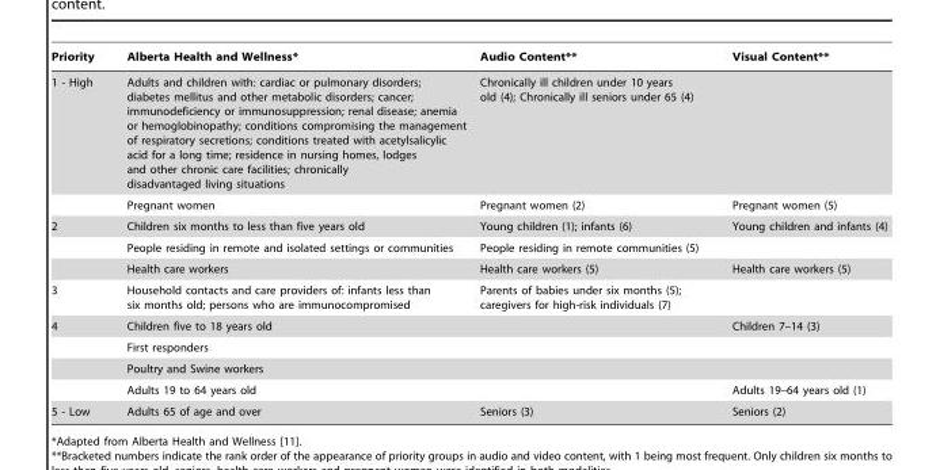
<table><thead><tr><td>Priority</td><td>Alberta Health and Wellness*</td><td>Audio Content**</td><td>Visual Content**</td></tr></thead><tbody><tr><td rowspan="2">1 - High</td><td>Adults and children with: cardiac or pulmonary disorders; diabetes mellitus and other metabolic disorders; cancer; immunodeficiency or immunosuppression; renal disease; anemia or hemoglobinopathy; conditions compromising the management of respiratory secretions; conditions treated with acetylsalicylic acid for a long time; residence in nursing homes, lodges and other chronic care facilities; chronically disadvantaged living situations</td><td>Chronically ill children under 10 years old (4); Chronically ill seniors under 65 (4)</td><td></td></tr><tr><td>Pregnant women</td><td>Pregnant women (2)</td><td>Pregnant women (5)</td></tr><tr><td rowspan="3">2</td><td>Children six months to less than five years old</td><td>Young children (1); infants (6)</td><td>Young children and infants (4)</td></tr><tr><td>People residing in remote and isolated settings or communities</td><td>People residing in remote communities (5)</td><td></td></tr><tr><td>Health care workers</td><td>Health care workers (5)</td><td>Health care workers (5)</td></tr><tr><td>3</td><td>Household contacts and care providers of: infants less than six months old; persons who are immunocompromised</td><td>Parents of babies under six months (5); caregivers for high-risk individuals (7)</td><td></td></tr><tr><td rowspan="4">4</td><td>Children five to 18 years old</td><td></td><td>Children 7–14 (3)</td></tr><tr><td>First responders</td><td></td><td></td></tr><tr><td>Poultry and Swine workers</td><td></td><td></td></tr><tr><td>Adults 19 to 64 years old</td><td></td><td>Adults 19–64 years old (1)</td></tr><tr><td>5 - Low</td><td>Adults 65 of age and over</td><td>Seniors (3)</td><td>Seniors (2)</td></tr></tbody></table>